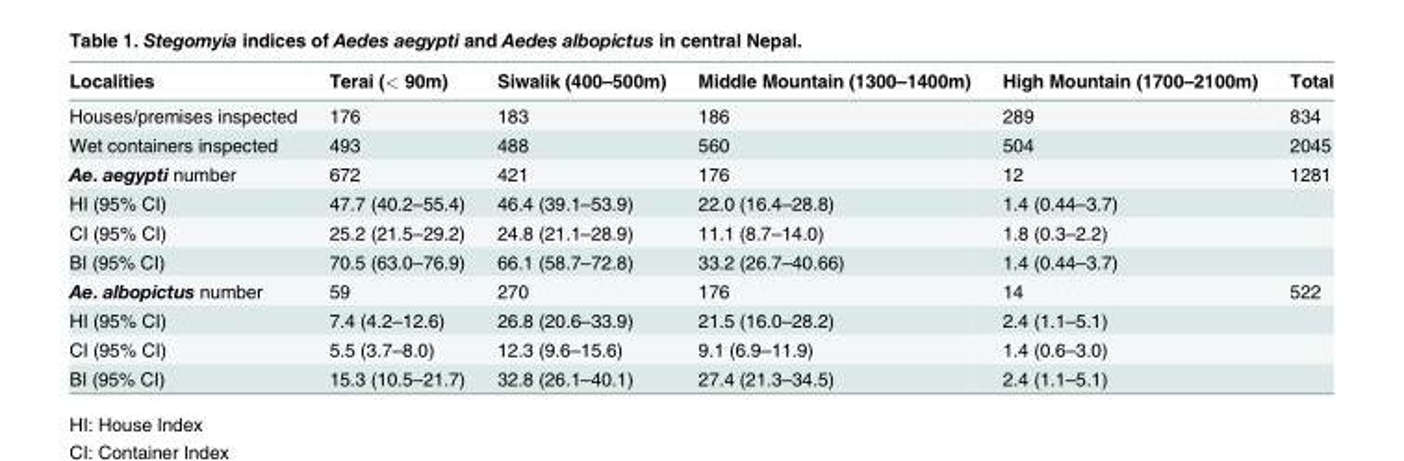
<table><thead><tr><td>Localities</td><td>Terai (&lt; 90m)</td><td>Siwalik (400–500m)</td><td>Middle Mountain (1300–1400m)</td><td>High Mountain (1700–2100m)</td><td>Total</td></tr></thead><tbody><tr><td>Houses/premises inspected</td><td>176</td><td>183</td><td>186</td><td>289</td><td>834</td></tr><tr><td>Wet containers inspected</td><td>493</td><td>488</td><td>560</td><td>504</td><td>2045</td></tr><tr><td>Ae. aegypti number</td><td>672</td><td>421</td><td>176</td><td>12</td><td>1281</td></tr><tr><td>HI (95% CI)</td><td>47.7 (40.2–55.4)</td><td>46.4 (39.1–53.9)</td><td>22.0 (16.4–28.8)</td><td>1.4 (0.44–3.7)</td><td></td></tr><tr><td>CI (95% CI)</td><td>25.2 (21.5–29.2)</td><td>24.8 (21.1–28.9)</td><td>11.1 (8.7–14.0)</td><td>1.8 (0.3–2.2)</td><td></td></tr><tr><td>BI (95% CI)</td><td>70.5 (63.0–76.9)</td><td>66.1 (58.7–72.8)</td><td>33.2 (26.7–40.66)</td><td>1.4 (0.44–3.7)</td><td></td></tr><tr><td>Ae. albopictus number</td><td>59</td><td>270</td><td>176</td><td>14</td><td>522</td></tr><tr><td>HI (95% CI)</td><td>7.4 (4.2–12.6)</td><td>26.8 (20.6–33.9)</td><td>21.5 (16.0–28.2)</td><td>2.4 (1.1–5.1)</td><td></td></tr><tr><td>CI (95% CI)</td><td>5.5 (3.7–8.0)</td><td>12.3 (9.6–15.6)</td><td>9.1 (6.9–11.9)</td><td>1.4 (0.6–3.0)</td><td></td></tr><tr><td>BI (95% CI)</td><td>15.3 (10.5–21.7)</td><td>32.8 (26.1–40.1)</td><td>27.4 (21.3–34.5)</td><td>2.4 (1.1–5.1)</td><td></td></tr></tbody></table>